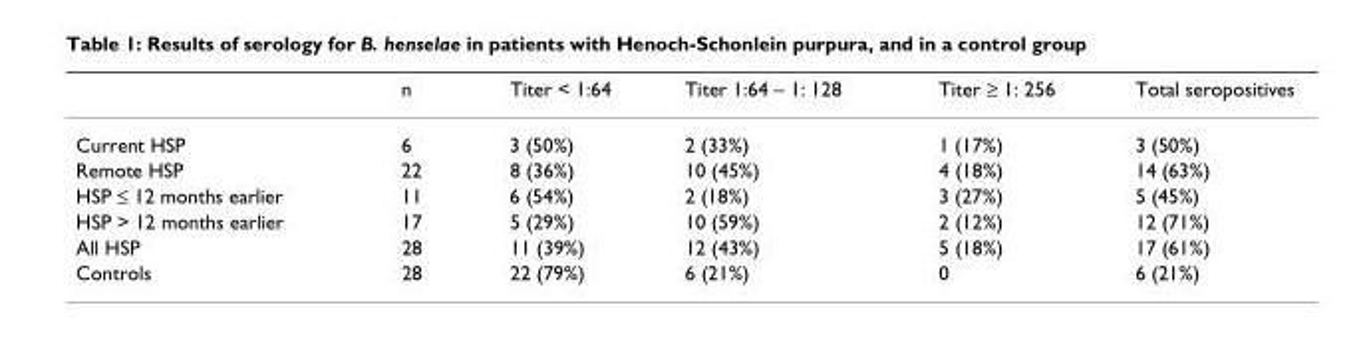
<table><thead><tr><td></td><td>n</td><td>Titer &lt; 1:64</td><td>Titer 1:64 – 1: 128</td><td>Titer ≥ 1: 256</td><td>Total seropositives</td></tr></thead><tbody><tr><td>Current HSP</td><td>6</td><td>3 (50%)</td><td>2 (33%)</td><td>1 (17%)</td><td>3 (50%)</td></tr><tr><td>Remote HSP</td><td>22</td><td>8 (36%)</td><td>10 (45%)</td><td>4 (18%)</td><td>14 (63%)</td></tr><tr><td>HSP ≤ 12 months earlier</td><td>11</td><td>6 (54%)</td><td>2 (18%)</td><td>3 (27%)</td><td>5 (45%)</td></tr><tr><td>HSP &gt; 12 months earlier</td><td>17</td><td>5 (29%)</td><td>10 (59%)</td><td>2 (12%)</td><td>12 (71%)</td></tr><tr><td>All HSP</td><td>28</td><td>11 (39%)</td><td>12 (43%)</td><td>5 (18%)</td><td>17 (61%)</td></tr><tr><td>Controls</td><td>28</td><td>22 (79%)</td><td>6 (21%)</td><td>0</td><td>6 (21%)</td></tr></tbody></table>